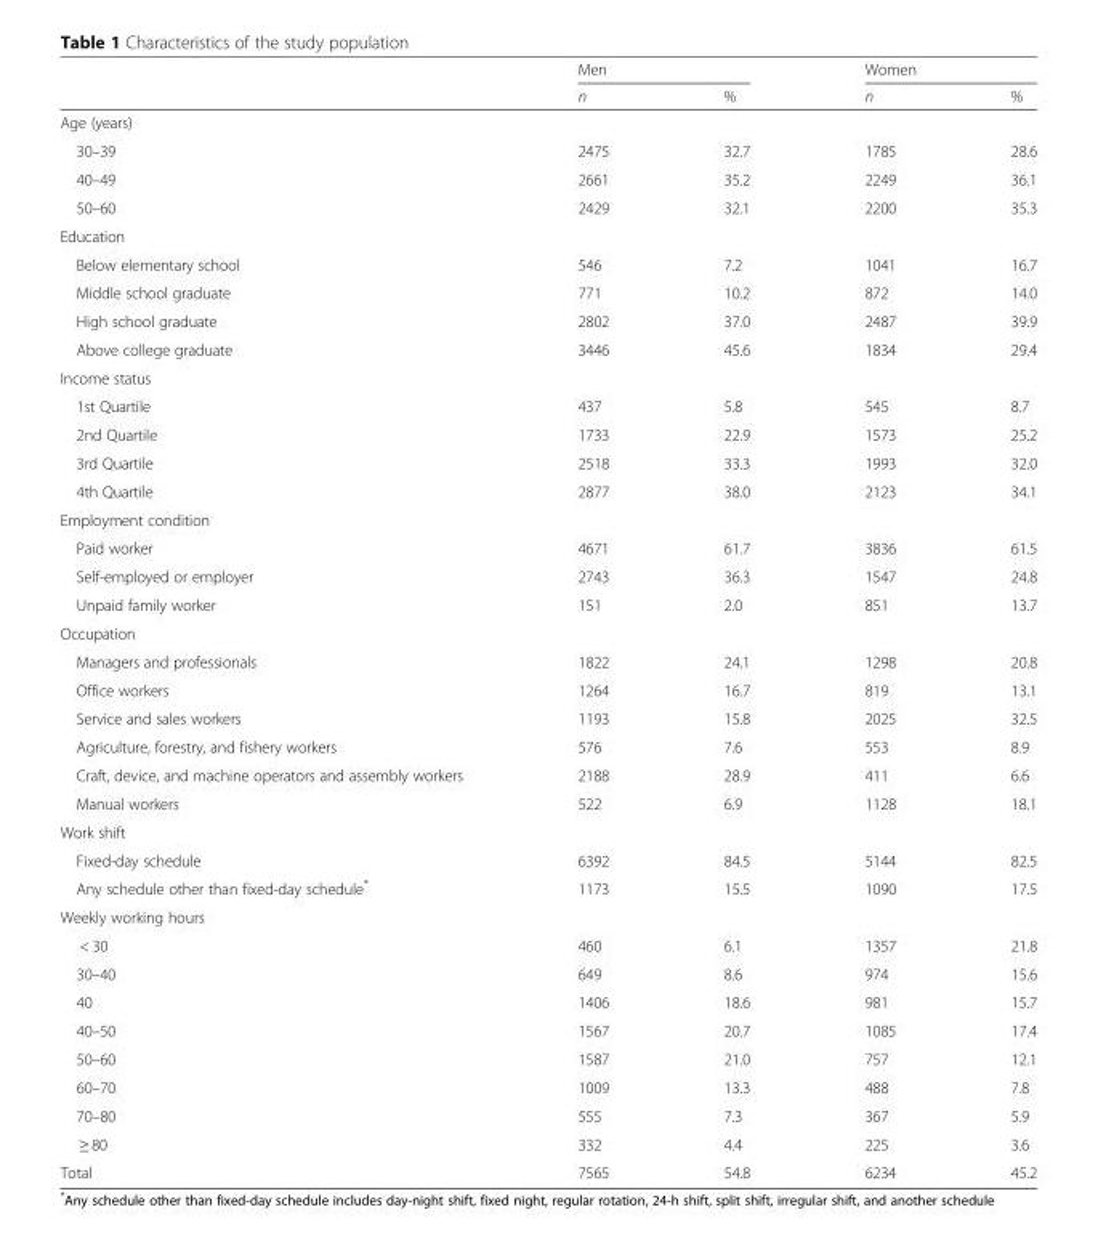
<table><thead><tr><td rowspan="2"></td><td colspan="2">Men</td><td colspan="2">Women</td></tr><tr><td>n</td><td>%</td><td>n</td><td>%</td></tr></thead><tbody><tr><td colspan="5">Age (years)</td></tr><tr><td>30–39</td><td>2475</td><td>32.7</td><td>1785</td><td>28.6</td></tr><tr><td>40–49</td><td>2661</td><td>35.2</td><td>2249</td><td>36.1</td></tr><tr><td>50–60</td><td>2429</td><td>32.1</td><td>2200</td><td>35.3</td></tr><tr><td colspan="5">Education</td></tr><tr><td>Below elementary school</td><td>546</td><td>7.2</td><td>1041</td><td>16.7</td></tr><tr><td>Middle school graduate</td><td>771</td><td>10.2</td><td>872</td><td>14.0</td></tr><tr><td>High school graduate</td><td>2802</td><td>37.0</td><td>2487</td><td>39.9</td></tr><tr><td>Above college graduate</td><td>3446</td><td>45.6</td><td>1834</td><td>29.4</td></tr><tr><td colspan="5">Income status</td></tr><tr><td>1st Quartile</td><td>437</td><td>5.8</td><td>545</td><td>8.7</td></tr><tr><td>2nd Quartile</td><td>1733</td><td>22.9</td><td>1573</td><td>25.2</td></tr><tr><td>3rd Quartile</td><td>2518</td><td>33.3</td><td>1993</td><td>32.0</td></tr><tr><td>4th Quartile</td><td>2877</td><td>38.0</td><td>2123</td><td>34.1</td></tr><tr><td colspan="5">Employment condition</td></tr><tr><td>Paid worker</td><td>4671</td><td>61.7</td><td>3836</td><td>61.5</td></tr><tr><td>Self-employed or employer</td><td>2743</td><td>36.3</td><td>1547</td><td>24.8</td></tr><tr><td>Unpaid family worker</td><td>151</td><td>2.0</td><td>851</td><td>13.7</td></tr><tr><td colspan="5">Occupation</td></tr><tr><td>Managers and professionals</td><td>1822</td><td>24.1</td><td>1298</td><td>20.8</td></tr><tr><td>Office workers</td><td>1264</td><td>16.7</td><td>819</td><td>13.1</td></tr><tr><td>Service and sales workers</td><td>1193</td><td>15.8</td><td>2025</td><td>32.5</td></tr><tr><td>Agriculture, forestry, and fishery workers</td><td>576</td><td>7.6</td><td>553</td><td>8.9</td></tr><tr><td>Craft, device, and machine operators and assembly workers</td><td>2188</td><td>28.9</td><td>411</td><td>6.6</td></tr><tr><td>Manual workers</td><td>522</td><td>6.9</td><td>1128</td><td>18.1</td></tr><tr><td colspan="5">Work shift</td></tr><tr><td>Fixed-day schedule</td><td>6392</td><td>84.5</td><td>5144</td><td>82.5</td></tr><tr><td>Any schedule other than fixed-day schedule*</td><td>1173</td><td>15.5</td><td>1090</td><td>17.5</td></tr><tr><td colspan="5">Weekly working hours</td></tr><tr><td>&lt; 30</td><td>460</td><td>6.1</td><td>1357</td><td>21.8</td></tr><tr><td>30–40</td><td>649</td><td>8.6</td><td>974</td><td>15.6</td></tr><tr><td>40</td><td>1406</td><td>18.6</td><td>981</td><td>15.7</td></tr><tr><td>40–50</td><td>1567</td><td>20.7</td><td>1085</td><td>17.4</td></tr><tr><td>50–60</td><td>1587</td><td>21.0</td><td>757</td><td>12.1</td></tr><tr><td>60–70</td><td>1009</td><td>13.3</td><td>488</td><td>7.8</td></tr><tr><td>70–80</td><td>555</td><td>7.3</td><td>367</td><td>5.9</td></tr><tr><td>≥ 80</td><td>332</td><td>4.4</td><td>225</td><td>3.6</td></tr><tr><td>Total</td><td>7565</td><td>54.8</td><td>6234</td><td>45.2</td></tr></tbody></table>